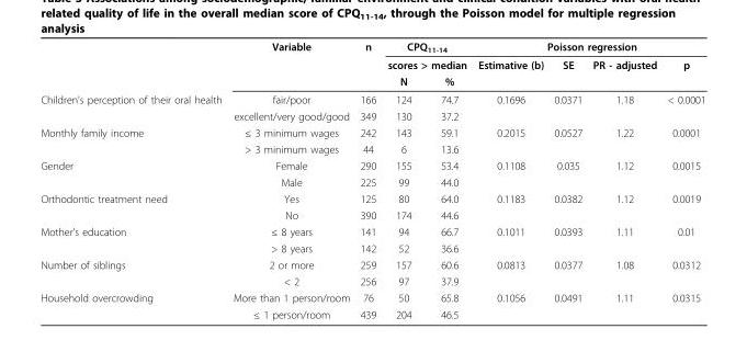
<table><thead><tr><td rowspan="3"></td><td rowspan="3">Variable</td><td rowspan="3">n</td><td rowspan="2" colspan="2">CPQ<sub>11-14</sub> scores &gt; median</td><td colspan="4">Poisson regression</td></tr><tr><td rowspan="2">Estimative (b)</td><td rowspan="2">SE</td><td rowspan="2">PR - adjusted</td><td rowspan="2">p</td></tr><tr><td>N</td><td>%</td></tr></thead><tbody><tr><td rowspan="2">Children’s perception of their oral health</td><td>fair/poor</td><td>166</td><td>124</td><td>74.7</td><td>0.1696</td><td>0.0371</td><td>1.18</td><td>&lt; 0.0001</td></tr><tr><td>excellent/very good/good</td><td>349</td><td>130</td><td>37.2</td><td></td><td></td><td></td><td></td></tr><tr><td rowspan="2">Monthly family income</td><td>≤ 3 minimum wages</td><td>242</td><td>143</td><td>59.1</td><td>0.2015</td><td>0.0527</td><td>1.22</td><td>0.0001</td></tr><tr><td>&gt; 3 minimum wages</td><td>44</td><td>6</td><td>13.6</td><td></td><td></td><td></td><td></td></tr><tr><td rowspan="2">Gender</td><td>Female</td><td>290</td><td>155</td><td>53.4</td><td>0.1108</td><td>0.035</td><td>1.12</td><td>0.0015</td></tr><tr><td>Male</td><td>225</td><td>99</td><td>44.0</td><td></td><td></td><td></td><td></td></tr><tr><td rowspan="2">Orthodontic treatment need</td><td>Yes</td><td>125</td><td>80</td><td>64.0</td><td>0.1183</td><td>0.0382</td><td>1.12</td><td>0.0019</td></tr><tr><td>No</td><td>390</td><td>174</td><td>44.6</td><td></td><td></td><td></td><td></td></tr><tr><td rowspan="2">Mother’s education</td><td>≤ 8 years</td><td>141</td><td>94</td><td>66.7</td><td>0.1011</td><td>0.0393</td><td>1.11</td><td>0.01</td></tr><tr><td>&gt; 8 years</td><td>142</td><td>52</td><td>36.6</td><td></td><td></td><td></td><td></td></tr><tr><td rowspan="2">Number of siblings</td><td>2 or more</td><td>259</td><td>157</td><td>60.6</td><td>0.0813</td><td>0.0377</td><td>1.08</td><td>0.0312</td></tr><tr><td>&lt; 2</td><td>256</td><td>97</td><td>37.9</td><td></td><td></td><td></td><td></td></tr><tr><td rowspan="2">Household overcrowding</td><td>More than 1 person/room</td><td>76</td><td>50</td><td>65.8</td><td>0.1056</td><td>0.0491</td><td>1.11</td><td>0.0315</td></tr><tr><td>≤ 1 person/room</td><td>439</td><td>204</td><td>46.5</td><td></td><td></td><td></td><td></td></tr></tbody></table>